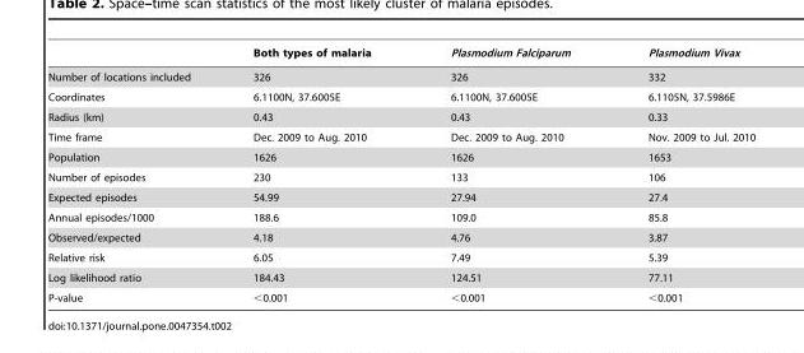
<table><thead><tr><td></td><td>Both types of malaria</td><td>Plasmodium Falciparum</td><td>Plasmodium Vivax</td></tr></thead><tbody><tr><td>Number of locations included</td><td>326</td><td>326</td><td>332</td></tr><tr><td>Coordinates</td><td>6.1100N, 37.6005E</td><td>6.1100N, 37.6005E</td><td>6.1105N, 37.5986E</td></tr><tr><td>Radius (km)</td><td>0.43</td><td>0.43</td><td>0.33</td></tr><tr><td>Time frame</td><td>Dec. 2009 to Aug. 2010</td><td>Dec. 2009 to Aug. 2010</td><td>Nov. 2009 to Jul. 2010</td></tr><tr><td>Population</td><td>1626</td><td>1626</td><td>1653</td></tr><tr><td>Number of episodes</td><td>230</td><td>133</td><td>106</td></tr><tr><td>Expected episodes</td><td>54.99</td><td>27.94</td><td>27.4</td></tr><tr><td>Annual episodes/1000</td><td>188.6</td><td>109.0</td><td>85.8</td></tr><tr><td>Observed/expected</td><td>4.18</td><td>4.76</td><td>3.87</td></tr><tr><td>Relative risk</td><td>6.05</td><td>7.49</td><td>5.39</td></tr><tr><td>Log likelihood ratio</td><td>184.43</td><td>124.51</td><td>77.11</td></tr><tr><td>P-value</td><td>&lt;0.001</td><td>&lt;0.001</td><td>&lt;0.001</td></tr></tbody></table>